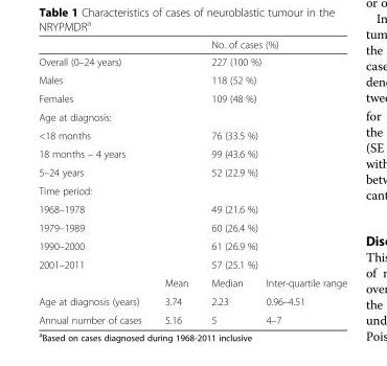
<table><thead><tr><td></td><td></td><td colspan="2">No. of cases (%)</td></tr></thead><tbody><tr><td colspan="2">Overall (0–24 years)</td><td colspan="2">227 (100 %)</td></tr><tr><td colspan="2">Males</td><td colspan="2">118 (52 %)</td></tr><tr><td colspan="2">Females</td><td colspan="2">109 (48 %)</td></tr><tr><td colspan="4">Age at diagnosis:</td></tr><tr><td colspan="2">&lt;18 months</td><td colspan="2">76 (33.5 %)</td></tr><tr><td colspan="2">18 months – 4 years</td><td colspan="2">99 (43.6 %)</td></tr><tr><td colspan="2">5–24 years</td><td colspan="2">52 (22.9 %)</td></tr><tr><td colspan="4">Time period:</td></tr><tr><td colspan="2">1968–1978</td><td colspan="2">49 (21.6 %)</td></tr><tr><td colspan="2">1979–1989</td><td colspan="2">60 (26.4 %)</td></tr><tr><td colspan="2">1990–2000</td><td colspan="2">61 (26.9 %)</td></tr><tr><td colspan="2">2001–2011</td><td colspan="2">57 (25.1 %)</td></tr><tr><td></td><td>Mean</td><td>Median</td><td>Inter-quartile range</td></tr><tr><td>Age at diagnosis (years)</td><td>3.74</td><td>2.23</td><td>0.96–4.51</td></tr><tr><td>Annual number of cases</td><td>5.16</td><td>5</td><td>4–7</td></tr></tbody></table>